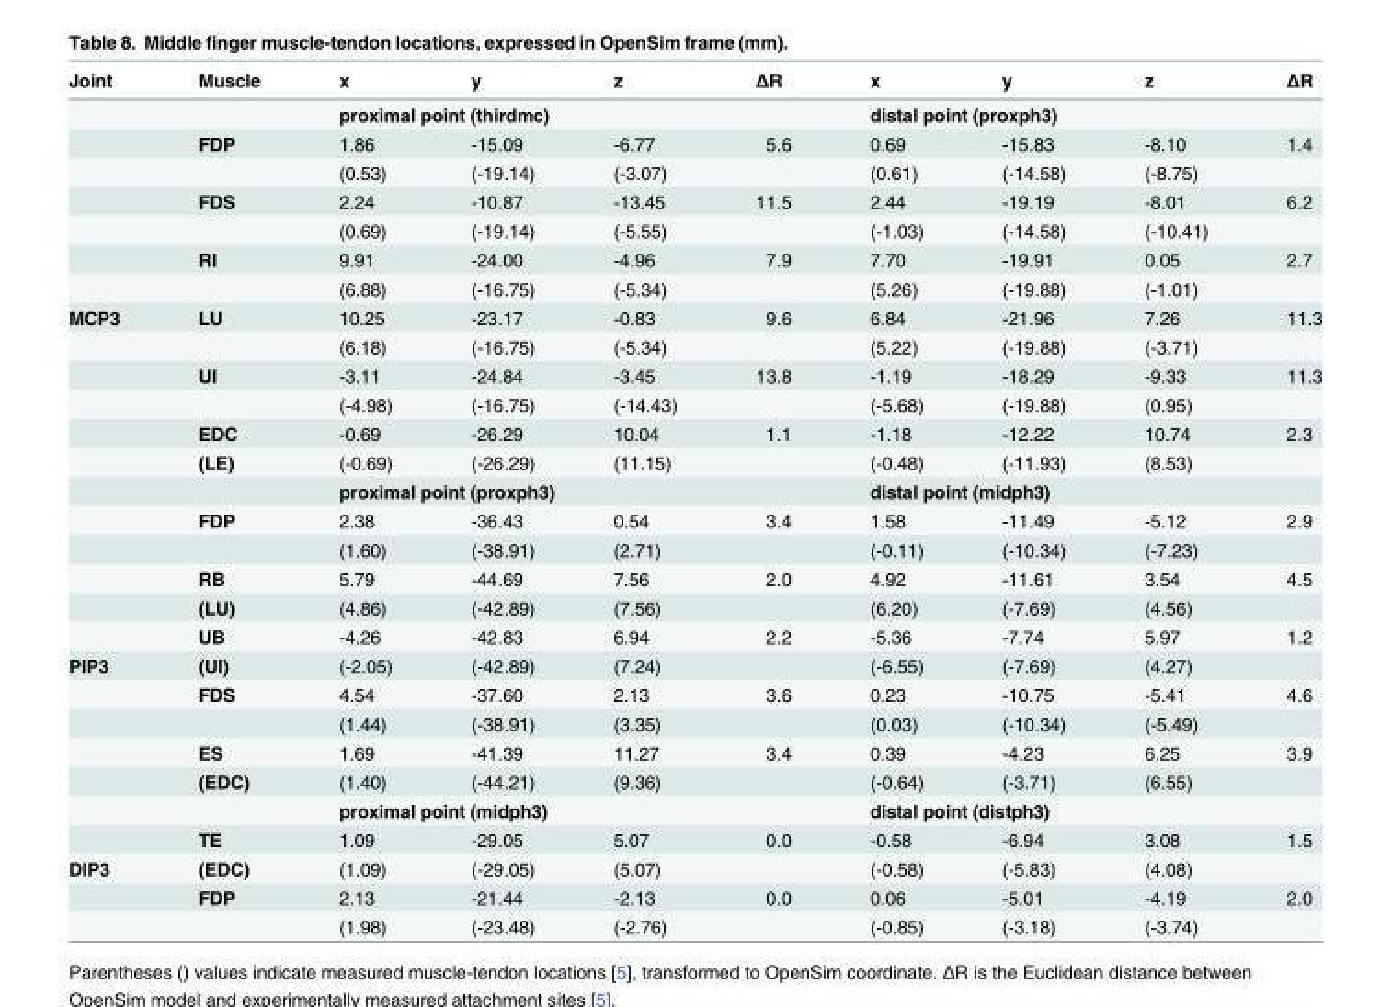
<table><thead><tr><td>Joint</td><td>Muscle</td><td>x</td><td>y</td><td>z</td><td>ΔR</td><td>x</td><td>y</td><td>z</td><td>ΔR</td></tr></thead><tbody><tr><td></td><td></td><td colspan="4">proximal point (thirdmc)</td><td colspan="4">distal point (proxph3)</td></tr><tr><td></td><td>FDP</td><td>1.86</td><td>-15.09</td><td>-6.77</td><td>5.6</td><td>0.69</td><td>-15.83</td><td>-8.10</td><td>1.4</td></tr><tr><td></td><td></td><td>(0.53)</td><td>(-19.14)</td><td>(-3.07)</td><td></td><td>(0.61)</td><td>(-14.58)</td><td>(-8.75)</td><td></td></tr><tr><td></td><td>FDS</td><td>2.24</td><td>-10.87</td><td>-13.45</td><td>11.5</td><td>2.44</td><td>-19.19</td><td>-8.01</td><td>6.2</td></tr><tr><td></td><td></td><td>(0.69)</td><td>(-19.14)</td><td>(-5.55)</td><td></td><td>(-1.03)</td><td>(-14.58)</td><td>(-10.41)</td><td></td></tr><tr><td></td><td>RI</td><td>9.91</td><td>-24.00</td><td>-4.96</td><td>7.9</td><td>7.70</td><td>-19.91</td><td>0.05</td><td>2.7</td></tr><tr><td></td><td></td><td>(6.88)</td><td>(-16.75)</td><td>(-5.34)</td><td></td><td>(5.26)</td><td>(-19.88)</td><td>(-1.01)</td><td></td></tr><tr><td rowspan="12">MCP3</td><td>LU</td><td>10.25</td><td>-23.17</td><td>-0.83</td><td>9.6</td><td>6.84</td><td>-21.96</td><td>7.26</td><td>11.3</td></tr><tr><td></td><td>(6.18)</td><td>(-16.75)</td><td>(-5.34)</td><td></td><td>(5.22)</td><td>(-19.88)</td><td>(-3.71)</td><td></td></tr><tr><td>UI</td><td>-3.11</td><td>-24.84</td><td>-3.45</td><td>13.8</td><td>-1.19</td><td>-18.29</td><td>-9.33</td><td>11.3</td></tr><tr><td></td><td>(-4.98)</td><td>(-16.75)</td><td>(-14.43)</td><td></td><td>(-5.68)</td><td>(-19.88)</td><td>(0.95)</td><td></td></tr><tr><td>EDC</td><td>-0.69</td><td>-26.29</td><td>10.04</td><td>1.1</td><td>-1.18</td><td>-12.22</td><td>10.74</td><td>2.3</td></tr><tr><td>(LE)</td><td>(-0.69)</td><td>(-26.29)</td><td>(11.15)</td><td></td><td>(-0.48)</td><td>(-11.93)</td><td>(8.53)</td><td></td></tr><tr><td></td><td colspan="4">proximal point (proxph3)</td><td colspan="4">distal point (midph3)</td></tr><tr><td>FDP</td><td>2.38</td><td>-36.43</td><td>0.54</td><td>3.4</td><td>1.58</td><td>-11.49</td><td>-5.12</td><td>2.9</td></tr><tr><td></td><td>(1.60)</td><td>(-38.91)</td><td>(2.71)</td><td></td><td>(-0.11)</td><td>(-10.34)</td><td>(-7.23)</td><td></td></tr><tr><td>RB</td><td>5.79</td><td>-44.69</td><td>7.56</td><td>2.0</td><td>4.92</td><td>-11.61</td><td>3.54</td><td>4.5</td></tr><tr><td>(LU)</td><td>(4.86)</td><td>(-42.89)</td><td>(7.56)</td><td></td><td>(6.20)</td><td>(-7.69)</td><td>(4.56)</td><td></td></tr><tr><td>UB</td><td>-4.26</td><td>-42.83</td><td>6.94</td><td>2.2</td><td>-5.36</td><td>-7.74</td><td>5.97</td><td>1.2</td></tr><tr><td rowspan="7">PIP3</td><td>(UI)</td><td>(-2.05)</td><td>(-42.89)</td><td>(7.24)</td><td></td><td>(-6.55)</td><td>(-7.69)</td><td>(4.27)</td><td></td></tr><tr><td>FDS</td><td>4.54</td><td>-37.60</td><td>2.13</td><td>3.6</td><td>0.23</td><td>-10.75</td><td>-5.41</td><td>4.6</td></tr><tr><td></td><td>(1.44)</td><td>(-38.91)</td><td>(3.35)</td><td></td><td>(0.03)</td><td>(-10.34)</td><td>(-5.49)</td><td></td></tr><tr><td>ES</td><td>1.69</td><td>-41.39</td><td>11.27</td><td>3.4</td><td>0.39</td><td>-4.23</td><td>6.25</td><td>3.9</td></tr><tr><td>(EDC)</td><td>(1.40)</td><td>(-44.21)</td><td>(9.36)</td><td></td><td>(-0.64)</td><td>(-3.71)</td><td>(6.55)</td><td></td></tr><tr><td></td><td colspan="4">proximal point (midph3)</td><td colspan="4">distal point (distph3)</td></tr><tr><td>TE</td><td>1.09</td><td>-29.05</td><td>5.07</td><td>0.0</td><td>-0.58</td><td>-6.94</td><td>3.08</td><td>1.5</td></tr><tr><td rowspan="3">DIP3</td><td>(EDC)</td><td>(1.09)</td><td>(-29.05)</td><td>(5.07)</td><td></td><td>(-0.58)</td><td>(-5.83)</td><td>(4.08)</td><td></td></tr><tr><td>FDP</td><td>2.13</td><td>-21.44</td><td>-2.13</td><td>0.0</td><td>0.06</td><td>-5.01</td><td>-4.19</td><td>2.0</td></tr><tr><td></td><td>(1.98)</td><td>(-23.48)</td><td>(-2.76)</td><td></td><td>(-0.85)</td><td>(-3.18)</td><td>(-3.74)</td><td></td></tr></tbody></table>